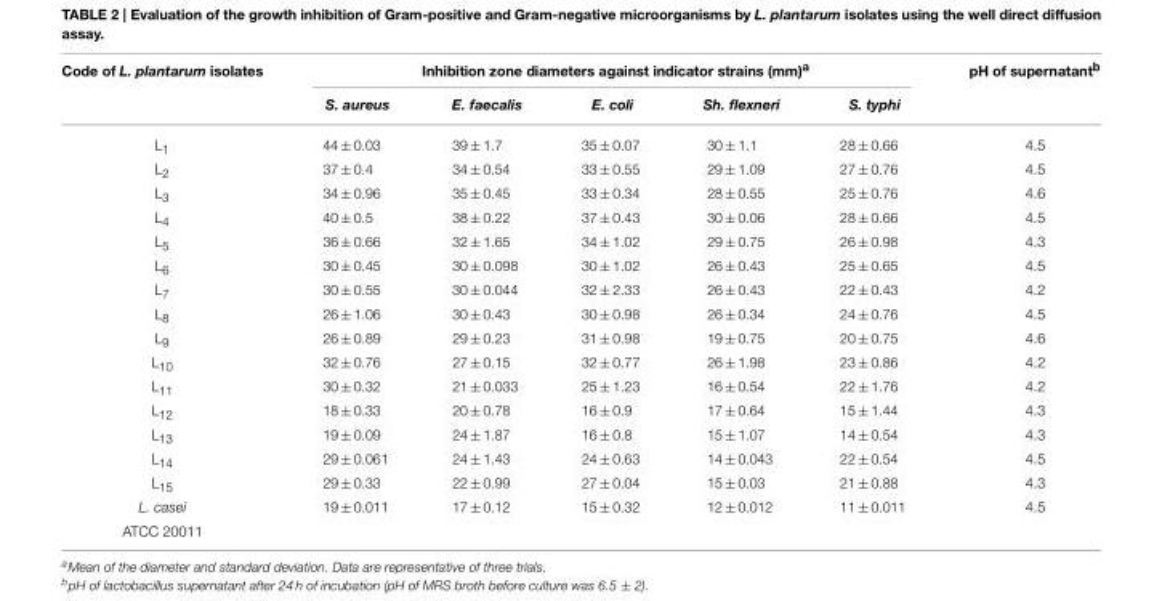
<table><thead><tr><td rowspan="2">Code of L. plantarum isolates</td><td colspan="5">Inhibition zone diameters against indicator strains (mm)<sup>a</sup></td><td rowspan="2">pH of supernatant<sup>b</sup></td></tr><tr><td>S. aureus</td><td>E. faecalis</td><td>E. coli</td><td>Sh. flexneri</td><td>S. typhi</td></tr></thead><tbody><tr><td>L<sub>1</sub></td><td>44 ± 0.03</td><td>39 ± 1.7</td><td>35 ± 0.07</td><td>30 ± 1.1</td><td>28 ± 0.66</td><td>4.5</td></tr><tr><td>L<sub>2</sub></td><td>37 ± 0.4</td><td>34 ± 0.54</td><td>33 ± 0.55</td><td>29 ± 1.09</td><td>27 ± 0.76</td><td>4.5</td></tr><tr><td>L<sub>3</sub></td><td>34 ± 0.96</td><td>35 ± 0.45</td><td>33 ± 0.34</td><td>28 ± 0.55</td><td>25 ± 0.76</td><td>4.6</td></tr><tr><td>L<sub>4</sub></td><td>40 ± 0.5</td><td>38 ± 0.22</td><td>37 ± 0.43</td><td>30 ± 0.06</td><td>28 ± 0.66</td><td>4.5</td></tr><tr><td>L<sub>5</sub></td><td>36 ± 0.66</td><td>32 ± 1.65</td><td>34 ± 1.02</td><td>29 ± 0.75</td><td>26 ± 0.98</td><td>4.3</td></tr><tr><td>L<sub>6</sub></td><td>30 ± 0.45</td><td>30 ± 0.098</td><td>30 ± 1.02</td><td>26 ± 0.43</td><td>25 ± 0.65</td><td>4.5</td></tr><tr><td>L<sub>7</sub></td><td>30 ± 0.55</td><td>30 ± 0.044</td><td>32 ± 2.33</td><td>26 ± 0.43</td><td>22 ± 0.43</td><td>4.2</td></tr><tr><td>L<sub>8</sub></td><td>26 ± 1.06</td><td>30 ± 0.43</td><td>30 ± 0.98</td><td>26 ± 0.34</td><td>24 ± 0.76</td><td>4.5</td></tr><tr><td>L<sub>9</sub></td><td>26 ± 0.89</td><td>29 ± 0.23</td><td>31 ± 0.98</td><td>19 ± 0.75</td><td>20 ± 0.75</td><td>4.6</td></tr><tr><td>L<sub>10</sub></td><td>32 ± 0.76</td><td>27 ± 0.15</td><td>32 ± 0.77</td><td>26 ± 1.98</td><td>23 ± 0.86</td><td>4.2</td></tr><tr><td>L<sub>11</sub></td><td>30 ± 0.32</td><td>21 ± 0.033</td><td>25 ± 1.23</td><td>16 ± 0.54</td><td>22 ± 1.76</td><td>4.2</td></tr><tr><td>L<sub>12</sub></td><td>18 ± 0.33</td><td>20 ± 0.78</td><td>16 ± 0.9</td><td>17 ± 0.64</td><td>15 ± 1.44</td><td>4.3</td></tr><tr><td>L<sub>13</sub></td><td>19 ± 0.09</td><td>24 ± 1.87</td><td>16 ± 0.8</td><td>15 ± 1.07</td><td>14 ± 0.54</td><td>4.3</td></tr><tr><td>L<sub>14</sub></td><td>29 ± 0.061</td><td>24 ± 1.43</td><td>24 ± 0.63</td><td>14 ± 0.043</td><td>22 ± 0.54</td><td>4.5</td></tr><tr><td>L<sub>15</sub></td><td>29 ± 0.33</td><td>22 ± 0.99</td><td>27 ± 0.04</td><td>15 ± 0.03</td><td>21 ± 0.88</td><td>4.3</td></tr><tr><td>L. casei</td><td>19 ± 0.011</td><td>17 ± 0.12</td><td>15 ± 0.32</td><td>12 ± 0.012</td><td>11 ± 0.011</td><td>4.5</td></tr><tr><td>ATCC 20011</td><td></td><td></td><td></td><td></td><td></td><td></td></tr></tbody></table>